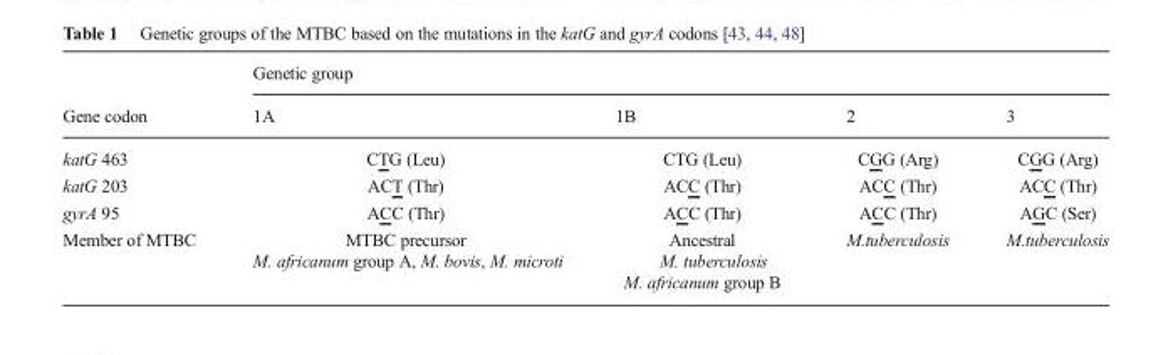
<table><thead><tr><td rowspan="2">Gene codon</td><td colspan="4">Genetic group</td></tr><tr><td>1A</td><td>1B</td><td>2</td><td>3</td></tr></thead><tbody><tr><td>katG 463</td><td>CTG (Leu)</td><td>CTG (Leu)</td><td>CGG (Arg)</td><td>CGG (Arg)</td></tr><tr><td>katG 203</td><td>ACT (Thr)</td><td>ACC (Thr)</td><td>ACC (Thr)</td><td>ACC (Thr)</td></tr><tr><td>gyrA 95</td><td>ACC (Thr)</td><td>ACC (Thr)</td><td>ACC (Thr)</td><td>AGC (Ser)</td></tr><tr><td>Member of MTBC</td><td>MTBC precursor M. africanum group A, M. bovis, M. microti</td><td>Ancestral M. tuberculosis M. africanum group B</td><td>M.tuberculosis</td><td>M.tuberculosis</td></tr></tbody></table>